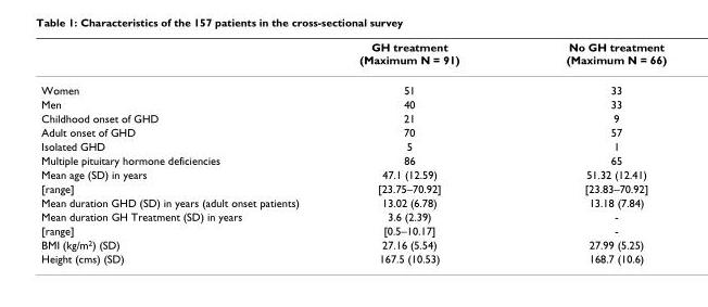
<table><thead><tr><td></td><td>GH treatment (Maximum N = 91)</td><td>No GH treatment (Maximum N = 66)</td></tr></thead><tbody><tr><td>Women</td><td>51</td><td>33</td></tr><tr><td>Men</td><td>40</td><td>33</td></tr><tr><td>Childhood onset of GHD</td><td>21</td><td>9</td></tr><tr><td>Adult onset of GHD</td><td>70</td><td>57</td></tr><tr><td>Isolated GHD</td><td>5</td><td>1</td></tr><tr><td>Multiple pituitary hormone deficiencies</td><td>86</td><td>65</td></tr><tr><td>Mean age (SD) in years</td><td>47.1 (12.59)</td><td>51.32 (12.41)</td></tr><tr><td>[range]</td><td>[23.75–70.92]</td><td>[23.83–70.92]</td></tr><tr><td>Mean duration GHD (SD) in years (adult onset patients)</td><td>13.02 (6.78)</td><td>13.18 (7.84)</td></tr><tr><td>Mean duration GH Treatment (SD) in years</td><td>3.6 (2.39)</td><td>-</td></tr><tr><td>[range]</td><td>[0.5–10.17]</td><td>-</td></tr><tr><td>BMI (kg/m<sup>2</sup>) (SD)</td><td>27.16 (5.54)</td><td>27.99 (5.25)</td></tr><tr><td>Height (cms) (SD)</td><td>167.5 (10.53)</td><td>168.7 (10.6)</td></tr></tbody></table>